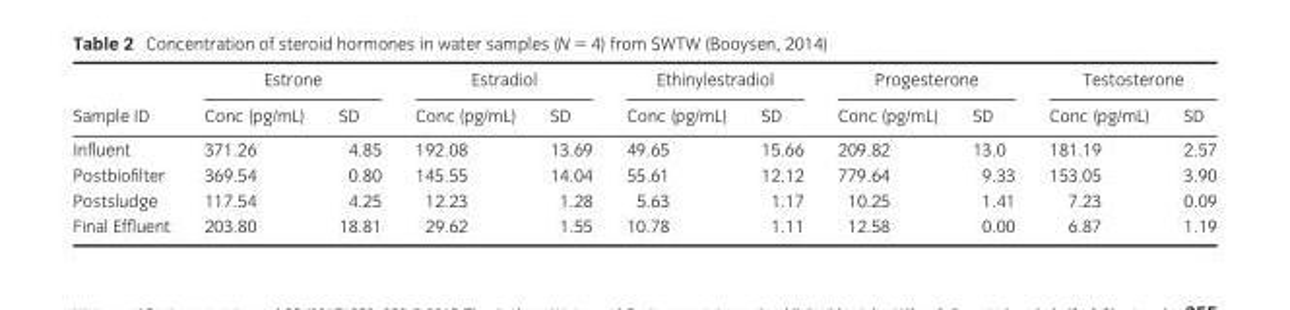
<table><thead><tr><td rowspan="2">Sample ID</td><td colspan="2">Estrone</td><td colspan="2">Estradiol</td><td colspan="2">Ethinylestradiol</td><td colspan="2">Progesterone</td><td colspan="2">Testosterone</td></tr><tr><td>Conc (pg/mL)</td><td>SD</td><td>Conc (pg/mL)</td><td>SD</td><td>Conc (pg/mL)</td><td>SD</td><td>Conc (pg/mL)</td><td>SD</td><td>Conc (pg/mL)</td><td>SD</td></tr></thead><tbody><tr><td>Influent</td><td>371.26</td><td>4.85</td><td>192.08</td><td>13.69</td><td>49.65</td><td>15.66</td><td>209.82</td><td>13.0</td><td>181.19</td><td>2.57</td></tr><tr><td>Postbiofilter</td><td>369.54</td><td>0.80</td><td>145.55</td><td>14.04</td><td>55.61</td><td>12.12</td><td>779.64</td><td>9.33</td><td>153.05</td><td>3.90</td></tr><tr><td>Postsludge</td><td>117.54</td><td>4.25</td><td>12.23</td><td>1.28</td><td>5.63</td><td>1.17</td><td>10.25</td><td>1.41</td><td>7.23</td><td>0.09</td></tr><tr><td>Final Effluent</td><td>203.80</td><td>18.81</td><td>29.62</td><td>1.55</td><td>10.78</td><td>1.11</td><td>12.58</td><td>0.00</td><td>6.87</td><td>1.19</td></tr></tbody></table>